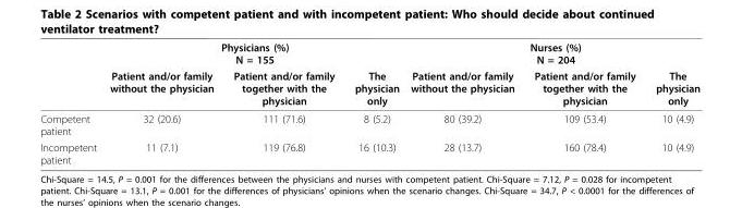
<table><thead><tr><td rowspan="2"></td><td colspan="3">Physicians (%) N = 155</td><td colspan="3">Nurses (%) N = 204</td></tr><tr><td>Patient and/or family without the physician</td><td>Patient and/or family together with the physician</td><td>The physician only</td><td>Patient and/or family without the physician</td><td>Patient and/or family together with the physician</td><td>The physician only</td></tr></thead><tbody><tr><td>Competent patient</td><td>32 (20.6)</td><td>111 (71.6)</td><td>8 (5.2)</td><td>80 (39.2)</td><td>109 (53.4)</td><td>10 (4.9)</td></tr><tr><td>Incompetent patient</td><td>11 (7.1)</td><td>119 (76.8)</td><td>16 (10.3)</td><td>28 (13.7)</td><td>160 (78.4)</td><td>10 (4.9)</td></tr></tbody></table>